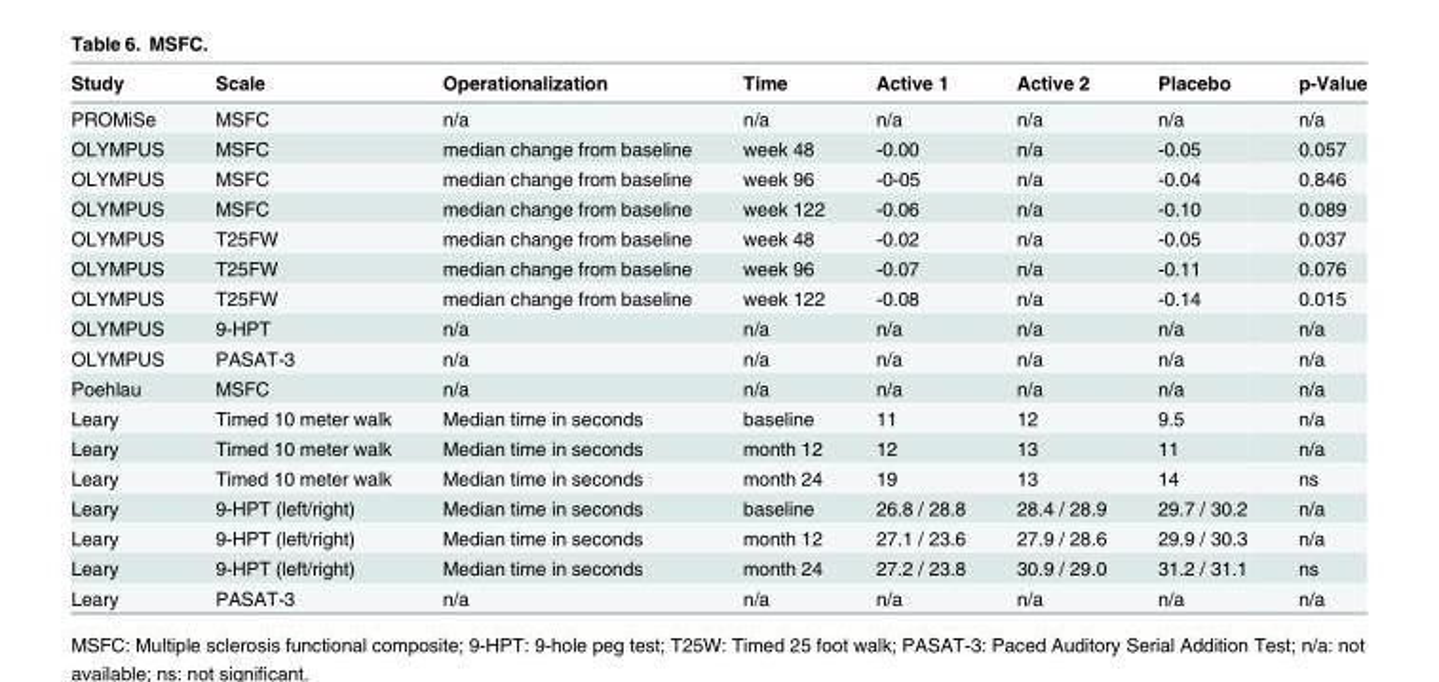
<table><thead><tr><td>Study</td><td>Scale</td><td>Operationalization</td><td>Time</td><td>Active 1</td><td>Active 2</td><td>Placebo</td><td>p-Value</td></tr></thead><tbody><tr><td>PROMiSe</td><td>MSFC</td><td>n/a</td><td>n/a</td><td>n/a</td><td>n/a</td><td>n/a</td><td>n/a</td></tr><tr><td>OLYMPUS</td><td>MSFC</td><td>median change from baseline</td><td>week 48</td><td>-0.00</td><td>n/a</td><td>-0.05</td><td>0.057</td></tr><tr><td>OLYMPUS</td><td>MSFC</td><td>median change from baseline</td><td>week 96</td><td>-0-05</td><td>n/a</td><td>-0.04</td><td>0.846</td></tr><tr><td>OLYMPUS</td><td>MSFC</td><td>median change from baseline</td><td>week 122</td><td>-0.06</td><td>n/a</td><td>-0.10</td><td>0.089</td></tr><tr><td>OLYMPUS</td><td>T25FW</td><td>median change from baseline</td><td>week 48</td><td>-0.02</td><td>n/a</td><td>-0.05</td><td>0.037</td></tr><tr><td>OLYMPUS</td><td>T25FW</td><td>median change from baseline</td><td>week 96</td><td>-0.07</td><td>n/a</td><td>-0.11</td><td>0.076</td></tr><tr><td>OLYMPUS</td><td>T25FW</td><td>median change from baseline</td><td>week 122</td><td>-0.08</td><td>n/a</td><td>-0.14</td><td>0.015</td></tr><tr><td>OLYMPUS</td><td>9-HPT</td><td>n/a</td><td>n/a</td><td>n/a</td><td>n/a</td><td>n/a</td><td>n/a</td></tr><tr><td>OLYMPUS</td><td>PASAT-3</td><td>n/a</td><td>n/a</td><td>n/a</td><td>n/a</td><td>n/a</td><td>n/a</td></tr><tr><td>Poehlau</td><td>MSFC</td><td>n/a</td><td>n/a</td><td>n/a</td><td>n/a</td><td>n/a</td><td>n/a</td></tr><tr><td>Leary</td><td>Timed 10 meter walk</td><td>Median time in seconds</td><td>baseline</td><td>11</td><td>12</td><td>9.5</td><td>n/a</td></tr><tr><td>Leary</td><td>Timed 10 meter walk</td><td>Median time in seconds</td><td>month 12</td><td>12</td><td>13</td><td>11</td><td>n/a</td></tr><tr><td>Leary</td><td>Timed 10 meter walk</td><td>Median time in seconds</td><td>month 24</td><td>19</td><td>13</td><td>14</td><td>ns</td></tr><tr><td>Leary</td><td>9-HPT (left/right)</td><td>Median time in seconds</td><td>baseline</td><td>26.8 / 28.8</td><td>28.4 / 28.9</td><td>29.7 / 30.2</td><td>n/a</td></tr><tr><td>Leary</td><td>9-HPT (left/right)</td><td>Median time in seconds</td><td>month 12</td><td>27.1 / 23.6</td><td>27.9 / 28.6</td><td>29.9 / 30.3</td><td>n/a</td></tr><tr><td>Leary</td><td>9-HPT (left/right)</td><td>Median time in seconds</td><td>month 24</td><td>27.2 / 23.8</td><td>30.9 / 29.0</td><td>31.2 / 31.1</td><td>ns</td></tr><tr><td>Leary</td><td>PASAT-3</td><td>n/a</td><td>n/a</td><td>n/a</td><td>n/a</td><td>n/a</td><td>n/a</td></tr></tbody></table>